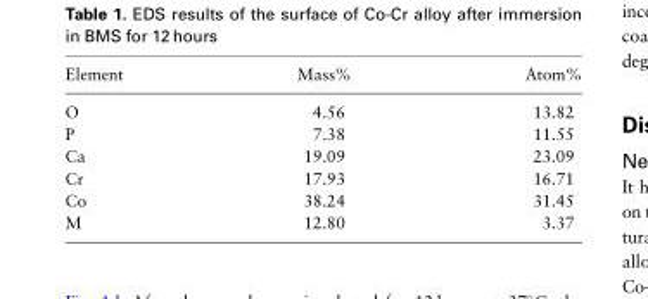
<table><thead><tr><td>Element</td><td>Mass%</td><td>Atom%</td></tr></thead><tbody><tr><td>O</td><td>4.56</td><td>13.82</td></tr><tr><td>P</td><td>7.38</td><td>11.55</td></tr><tr><td>Ca</td><td>19.09</td><td>23.09</td></tr><tr><td>Cr</td><td>17.93</td><td>16.71</td></tr><tr><td>Co</td><td>38.24</td><td>31.45</td></tr><tr><td>M</td><td>12.80</td><td>3.37</td></tr></tbody></table>